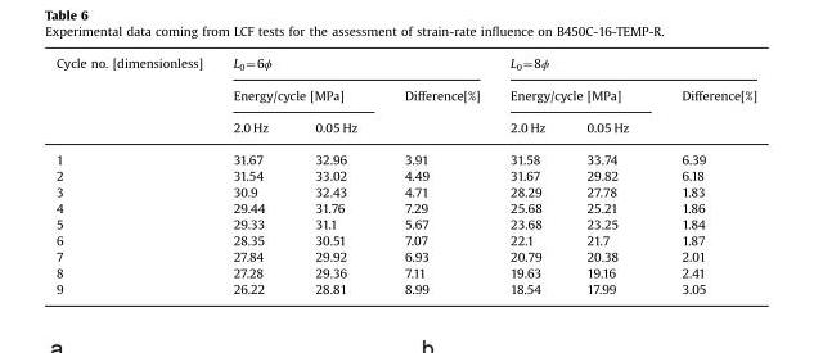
<table><thead><tr><td rowspan="3">Cycle no. [dimensionless]</td><td colspan="3">L<sub>0</sub>=6ϕ</td><td colspan="3">L<sub>0</sub>=8ϕ</td></tr><tr><td colspan="2">Energy/cycle [MPa]</td><td rowspan="2">Difference[%]</td><td colspan="2">Energy/cycle [MPa]</td><td rowspan="2">Difference[%]</td></tr><tr><td>2.0 Hz</td><td>0.05 Hz</td><td>2.0 Hz</td><td>0.05 Hz</td></tr></thead><tbody><tr><td>1</td><td>31.67</td><td>32.96</td><td>3.91</td><td>31.58</td><td>33.74</td><td>6.39</td></tr><tr><td>2</td><td>31.54</td><td>33.02</td><td>4.49</td><td>31.67</td><td>29.82</td><td>6.18</td></tr><tr><td>3</td><td>30.9</td><td>32.43</td><td>4.71</td><td>28.29</td><td>27.78</td><td>1.83</td></tr><tr><td>4</td><td>29.44</td><td>31.76</td><td>7.29</td><td>25.68</td><td>25.21</td><td>1.86</td></tr><tr><td>5</td><td>29.33</td><td>31.1</td><td>5.67</td><td>23.68</td><td>23.25</td><td>1.84</td></tr><tr><td>6</td><td>28.35</td><td>30.51</td><td>7.07</td><td>22.1</td><td>21.7</td><td>1.87</td></tr><tr><td>7</td><td>27.84</td><td>29.92</td><td>6.93</td><td>20.79</td><td>20.38</td><td>2.01</td></tr><tr><td>8</td><td>27.28</td><td>29.36</td><td>7.11</td><td>19.63</td><td>19.16</td><td>2.41</td></tr><tr><td>9</td><td>26.22</td><td>28.81</td><td>8.99</td><td>18.54</td><td>17.99</td><td>3.05</td></tr></tbody></table>